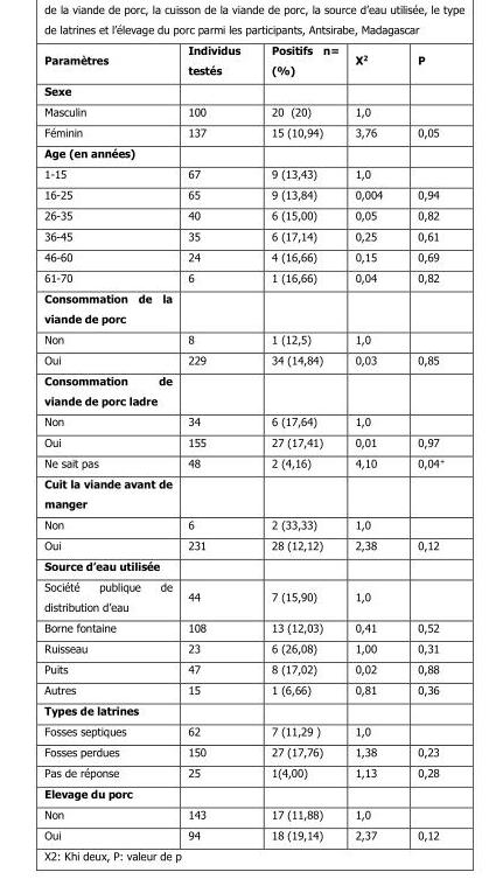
<table><thead><tr><td>Paramètres</td><td>Individus testés</td><td>Positifs n= (%)</td><td>X2</td><td>P</td></tr></thead><tbody><tr><td colspan="5">Sexe</td></tr><tr><td>Masculin</td><td>100</td><td>20 (20)</td><td>1,0</td><td></td></tr><tr><td>Féminin</td><td>137</td><td>15 (10,94)</td><td>3,76</td><td>0,05</td></tr><tr><td colspan="5">Age (en années)</td></tr><tr><td>1-15</td><td>67</td><td>9 (13,43)</td><td>1,0</td><td></td></tr><tr><td>16-25</td><td>65</td><td>9 (13,84)</td><td>0,004</td><td>0,94</td></tr><tr><td>26-35</td><td>40</td><td>6 (15,00)</td><td>0,05</td><td>0,82</td></tr><tr><td>36-45</td><td>35</td><td>6 (17,14)</td><td>0,25</td><td>0,61</td></tr><tr><td>46-60</td><td>24</td><td>4 (16,66)</td><td>0,15</td><td>0,69</td></tr><tr><td>61-70</td><td>6</td><td>1 (16,66)</td><td>0,04</td><td>0,82</td></tr><tr><td colspan="5">Consommation de la viande de porc</td></tr><tr><td>Non</td><td>8</td><td>1 (12,5)</td><td>1,0</td><td></td></tr><tr><td>Oui</td><td>229</td><td>34 (14,84)</td><td>0,03</td><td>0,85</td></tr><tr><td colspan="5">Consommation de viande de porc ladre</td></tr><tr><td>Non</td><td>34</td><td>6 (17,64)</td><td>1,0</td><td></td></tr><tr><td>Oui</td><td>155</td><td>27 (17,41)</td><td>0,01</td><td>0,97</td></tr><tr><td>Ne sait pas</td><td>48</td><td>2 (4,16)</td><td>4,10</td><td>0,04<sup>+</sup></td></tr><tr><td colspan="5">Cuit la viande avant de manger</td></tr><tr><td>Non</td><td>6</td><td>2 (33,33)</td><td>1,0</td><td></td></tr><tr><td>Oui</td><td>231</td><td>28 (12,12)</td><td>2,38</td><td>0,12</td></tr><tr><td colspan="5">Source d’eau utilisée</td></tr><tr><td>Société publique de distribution d’eau</td><td>44</td><td>7 (15,90)</td><td>1,0</td><td></td></tr><tr><td>Borne fontaine</td><td>108</td><td>13 (12,03)</td><td>0,41</td><td>0,52</td></tr><tr><td>Ruisseau</td><td>23</td><td>6 (26,08)</td><td>1,00</td><td>0,31</td></tr><tr><td>Puits</td><td>47</td><td>8 (17,02)</td><td>0,02</td><td>0,88</td></tr><tr><td>Autres</td><td>15</td><td>1 (6,66)</td><td>0,81</td><td>0,36</td></tr><tr><td colspan="5">Types de latrines</td></tr><tr><td>Fosses septiques</td><td>62</td><td>7 (11,29 )</td><td>1,0</td><td></td></tr><tr><td>Fosses perdues</td><td>150</td><td>27 (17,76)</td><td>1,38</td><td>0,23</td></tr><tr><td>Pas de réponse</td><td>25</td><td>1(4,00)</td><td>1,13</td><td>0,28</td></tr><tr><td colspan="5">Elevage du porc</td></tr><tr><td>Non</td><td>143</td><td>17 (11,88)</td><td>1,0</td><td></td></tr><tr><td>Oui</td><td>94</td><td>18 (19,14)</td><td>2,37</td><td>0,12</td></tr></tbody></table>